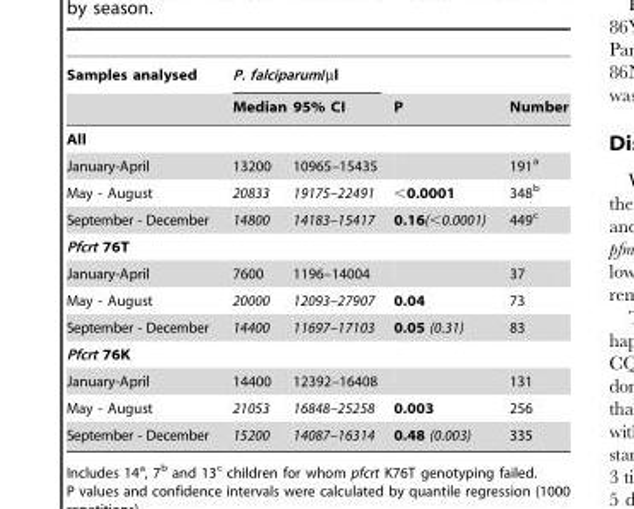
<table><thead><tr><td rowspan="2">Samples analysed</td><td colspan="2">P. falciparum/µl</td><td rowspan="2">P</td><td rowspan="2">Number</td></tr><tr><td>Median</td><td>95% CI</td></tr></thead><tbody><tr><td colspan="5">All</td></tr><tr><td>January-April</td><td>13200</td><td>10965–15435</td><td></td><td>191<sup>a</sup></td></tr><tr><td>May - August</td><td>20833</td><td>19175–22491</td><td>&lt;0.0001</td><td>348<sup>b</sup></td></tr><tr><td>September - December</td><td>14800</td><td>14183–15417</td><td>0.16(&lt;0.0001)</td><td>449<sup>c</sup></td></tr><tr><td colspan="5">Pfcrt 76T</td></tr><tr><td>January-April</td><td>7600</td><td>1196–14004</td><td></td><td>37</td></tr><tr><td>May - August</td><td>20000</td><td>12093–27907</td><td>0.04</td><td>73</td></tr><tr><td>September - December</td><td>14400</td><td>11697–17103</td><td>0.05 (0.31)</td><td>83</td></tr><tr><td colspan="5">Pfcrt 76K</td></tr><tr><td>January-April</td><td>14400</td><td>12392–16408</td><td></td><td>131</td></tr><tr><td>May - August</td><td>21053</td><td>16848–25258</td><td>0.003</td><td>256</td></tr><tr><td>September - December</td><td>15200</td><td>14087–16314</td><td>0.48 (0.003)</td><td>335</td></tr></tbody></table>